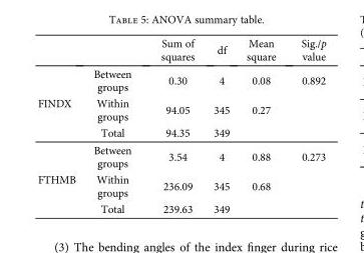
<table><thead><tr><td></td><td></td><td>Sum of squares</td><td>df</td><td>Mean square</td><td>Sig./p value</td></tr></thead><tbody><tr><td rowspan="3">FINDX</td><td>Between groups</td><td>0.30</td><td>4</td><td>0.08</td><td>0.892</td></tr><tr><td>Within groups</td><td>94.05</td><td>345</td><td>0.27</td><td></td></tr><tr><td>Total</td><td>94.35</td><td>349</td><td></td><td></td></tr><tr><td rowspan="3">FTHMB</td><td>Between groups</td><td>3.54</td><td>4</td><td>0.88</td><td>0.273</td></tr><tr><td>Within groups</td><td>236.09</td><td>345</td><td>0.68</td><td></td></tr><tr><td>Total</td><td>239.63</td><td>349</td><td></td><td></td></tr></tbody></table>